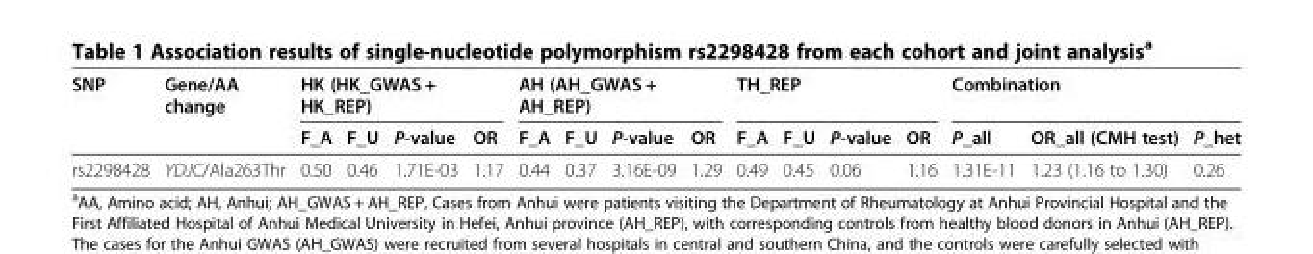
<table><thead><tr><td rowspan="2">SNP</td><td rowspan="2">Gene/AA change</td><td colspan="4">HK (HK_GWAS + HK_REP)</td><td colspan="4">AH (AH_GWAS + AH_REP)</td><td colspan="4">TH_REP</td><td colspan="3">Combination</td></tr><tr><td>F_A</td><td>F_U</td><td>P-value</td><td>OR</td><td>F_A</td><td>F_U</td><td>P-value</td><td>OR</td><td>F_A</td><td>F_U</td><td>P-value</td><td>OR</td><td>P_all</td><td>OR_all (CMH test)</td><td>P_het</td></tr></thead><tbody><tr><td>rs2298428</td><td>YDJC/Ala263Thr</td><td>0.50</td><td>0.46</td><td>1.71E-03</td><td>1.17</td><td>0.44</td><td>0.37</td><td>3.16E-09</td><td>1.29</td><td>0.49</td><td>0.45</td><td>0.06</td><td>1.16</td><td>1.31E-11</td><td>1.23 (1.16 to 1.30)</td><td>0.26</td></tr></tbody></table>